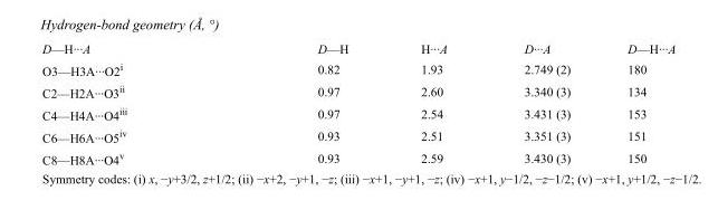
<table><tbody><tr><td>D—H···A</td><td>D—H</td><td>H···A</td><td>D···A</td><td>D—H···A</td></tr><tr><td>O3—H3A···O2<sup>i</sup></td><td>0.82</td><td>1.93</td><td>2.749 (2)</td><td>180</td></tr><tr><td>C2—H2A···O3<sup>ii</sup></td><td>0.97</td><td>2.60</td><td>3.340 (3)</td><td>134</td></tr><tr><td>C4—H4A···O4<sup>iii</sup></td><td>0.97</td><td>2.54</td><td>3.431 (3)</td><td>153</td></tr><tr><td>C6—H6A···O5<sup>iv</sup></td><td>0.93</td><td>2.51</td><td>3.351 (3)</td><td>151</td></tr><tr><td>C8—H8A···O4<sup>v</sup></td><td>0.93</td><td>2.59</td><td>3.430 (3)</td><td>150</td></tr></tbody></table>